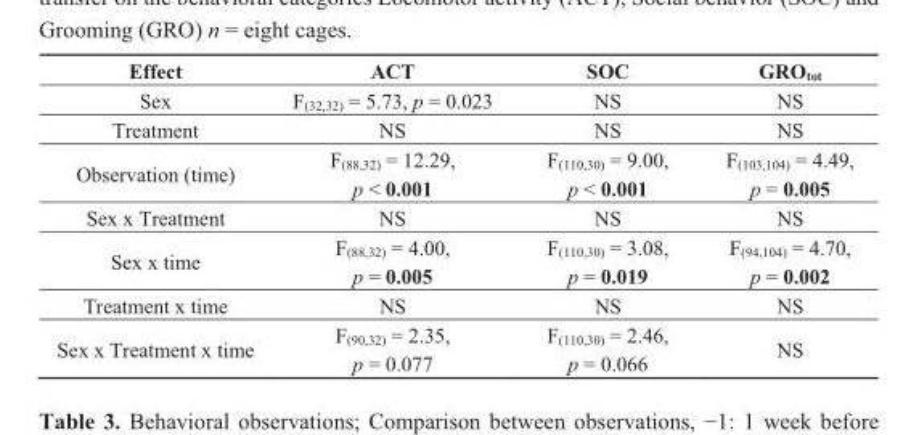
<table><thead><tr><td>Effect</td><td>ACT</td><td>SOC</td><td>GRO<sub>tot</sub></td></tr></thead><tbody><tr><td>Sex</td><td>F<sub>(32,32)</sub> = 5.73, p = 0.023</td><td>NS</td><td>NS</td></tr><tr><td>Treatment</td><td>NS</td><td>NS</td><td>NS</td></tr><tr><td>Observation (time)</td><td>F<sub>(88,32)</sub> = 12.29, p &lt; 0.001</td><td>F<sub>(110,30)</sub> = 9.00, p &lt; 0.001</td><td>F<sub>(103,104)</sub> = 4.49, p = 0.005</td></tr><tr><td>Sex x Treatment</td><td>NS</td><td>NS</td><td>NS</td></tr><tr><td>Sex x time</td><td>F<sub>(88,32)</sub> = 4.00, p = 0.005</td><td>F<sub>(110,30)</sub> = 3.08, p = 0.019</td><td>F<sub>(94,104)</sub> = 4.70, p = 0.002</td></tr><tr><td>Treatment x time</td><td>NS</td><td>NS</td><td>NS</td></tr><tr><td>Sex x Treatment x time</td><td>F<sub>(90,32)</sub> = 2.35, p = 0.077</td><td>F<sub>(110,30)</sub> = 2.46, p = 0.066</td><td>NS</td></tr></tbody></table>